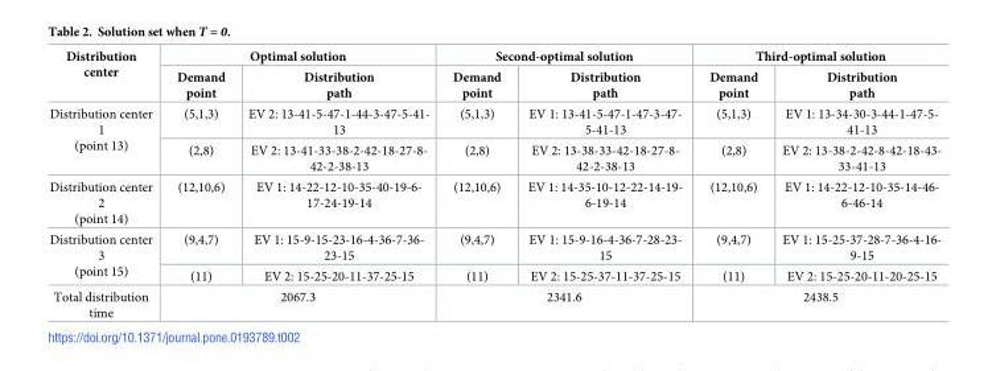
<table><thead><tr><td rowspan="2">Distribution center</td><td colspan="2">Optimal solution</td><td colspan="2">Second-optimal solution</td><td colspan="2">Third-optimal solution</td></tr><tr><td>Demand point</td><td>Distribution path</td><td>Demand point</td><td>Distribution path</td><td>Demand point</td><td>Distribution path</td></tr></thead><tbody><tr><td rowspan="2">Distribution center 1 (point 13)</td><td>(5,1,3)</td><td>EV 2: 13-41-5-47-1-44-3-47-5-41- 13</td><td>(5,1,3)</td><td>EV 1: 13-41-5-47-1-47-3-47- 5-41-13</td><td>(5,1,3)</td><td>EV 1: 13-34-30-3-44-1-47-5- 41-13</td></tr><tr><td>(2,8)</td><td>EV 2: 13-41-33-38-2-42-18-27-8- 42-2-38-13</td><td>(2,8)</td><td>EV 2: 13-38-33-42-18-27-8- 42-2-38-13</td><td>(2,8)</td><td>EV 2: 13-38-2-42-8-42-18-43- 33-41-13</td></tr><tr><td>Distribution center 2 (point 14)</td><td>(12,10,6)</td><td>EV 1: 14-22-12-10-35-40-19-6- 17-24-19-14</td><td>(12,10,6)</td><td>EV 1: 14-35-10-12-22-14-19- 6-19-14</td><td>(12,10,6)</td><td>EV 1: 14-22-12-10-35-14-46- 6-46-14</td></tr><tr><td rowspan="2">Distribution center 3 (point 15)</td><td>(9,4,7)</td><td>EV 1: 15-9-15-23-16-4-36-7-36- 23-15</td><td>(9,4,7)</td><td>EV 1: 15-9-16-4-36-7-28-23- 15</td><td>(9,4,7)</td><td>EV 1: 15-25-37-28-7-36-4-16- 9-15</td></tr><tr><td>(11)</td><td>EV 2: 15-25-20-11-37-25-15</td><td>(11)</td><td>EV 2: 15-25-37-11-37-25-15</td><td>(11)</td><td>EV 2: 15-25-20-11-20-25-15</td></tr><tr><td>Total distribution time</td><td colspan="2">2067.3</td><td colspan="2">2341.6</td><td colspan="2">2438.5</td></tr></tbody></table>